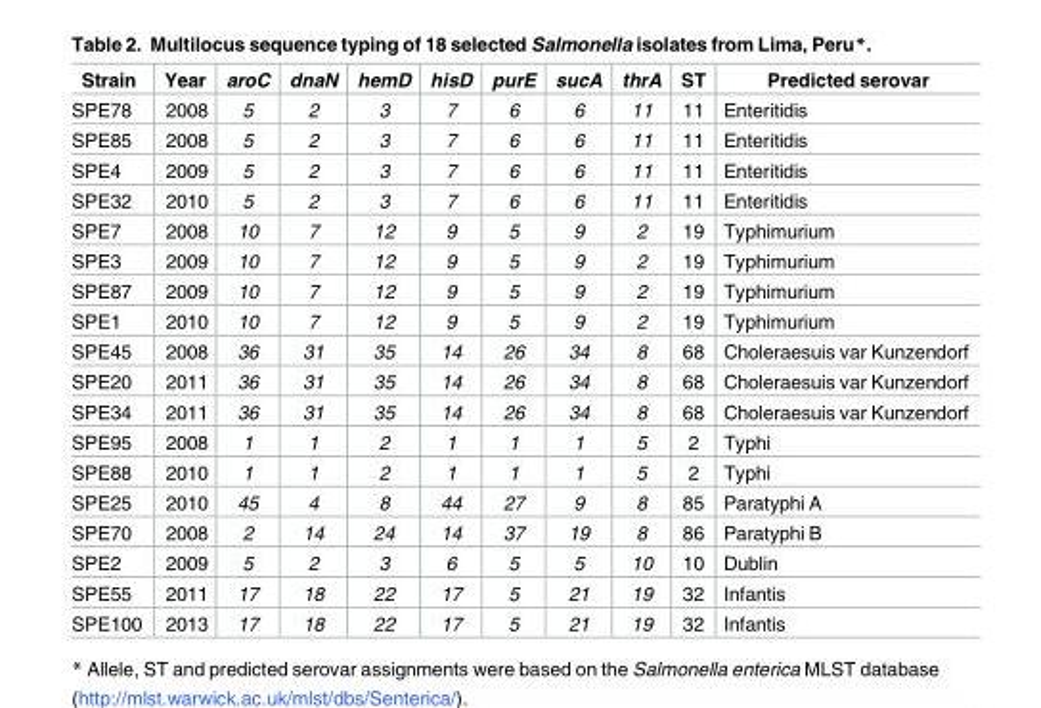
<table><thead><tr><td>Strain</td><td>Year</td><td>aroC</td><td>dnaN</td><td>hemD</td><td>hisD</td><td>purE</td><td>sucA</td><td>thrA</td><td>ST</td><td>Predicted serovar</td></tr></thead><tbody><tr><td>SPE78</td><td>2008</td><td>5</td><td>2</td><td>3</td><td>7</td><td>6</td><td>6</td><td>11</td><td>11</td><td>Enteritidis</td></tr><tr><td>SPE85</td><td>2008</td><td>5</td><td>2</td><td>3</td><td>7</td><td>6</td><td>6</td><td>11</td><td>11</td><td>Enteritidis</td></tr><tr><td>SPE4</td><td>2009</td><td>5</td><td>2</td><td>3</td><td>7</td><td>6</td><td>6</td><td>11</td><td>11</td><td>Enteritidis</td></tr><tr><td>SPE32</td><td>2010</td><td>5</td><td>2</td><td>3</td><td>7</td><td>6</td><td>6</td><td>11</td><td>11</td><td>Enteritidis</td></tr><tr><td>SPE7</td><td>2008</td><td>10</td><td>7</td><td>12</td><td>9</td><td>5</td><td>9</td><td>2</td><td>19</td><td>Typhimurium</td></tr><tr><td>SPE3</td><td>2009</td><td>10</td><td>7</td><td>12</td><td>9</td><td>5</td><td>9</td><td>2</td><td>19</td><td>Typhimurium</td></tr><tr><td>SPE87</td><td>2009</td><td>10</td><td>7</td><td>12</td><td>9</td><td>5</td><td>9</td><td>2</td><td>19</td><td>Typhimurium</td></tr><tr><td>SPE1</td><td>2010</td><td>10</td><td>7</td><td>12</td><td>9</td><td>5</td><td>9</td><td>2</td><td>19</td><td>Typhimurium</td></tr><tr><td>SPE45</td><td>2008</td><td>36</td><td>31</td><td>35</td><td>14</td><td>26</td><td>34</td><td>8</td><td>68</td><td>Choleraesuis var Kunzendorf</td></tr><tr><td>SPE20</td><td>2011</td><td>36</td><td>31</td><td>35</td><td>14</td><td>26</td><td>34</td><td>8</td><td>68</td><td>Choleraesuis var Kunzendorf</td></tr><tr><td>SPE34</td><td>2011</td><td>36</td><td>31</td><td>35</td><td>14</td><td>26</td><td>34</td><td>8</td><td>68</td><td>Choleraesuis var Kunzendorf</td></tr><tr><td>SPE95</td><td>2008</td><td>1</td><td>1</td><td>2</td><td>1</td><td>1</td><td>1</td><td>5</td><td>2</td><td>Typhi</td></tr><tr><td>SPE88</td><td>2010</td><td>1</td><td>1</td><td>2</td><td>1</td><td>1</td><td>1</td><td>5</td><td>2</td><td>Typhi</td></tr><tr><td>SPE25</td><td>2010</td><td>45</td><td>4</td><td>8</td><td>44</td><td>27</td><td>9</td><td>8</td><td>85</td><td>Paratyphi A</td></tr><tr><td>SPE70</td><td>2008</td><td>2</td><td>14</td><td>24</td><td>14</td><td>37</td><td>19</td><td>8</td><td>86</td><td>Paratyphi B</td></tr><tr><td>SPE2</td><td>2009</td><td>5</td><td>2</td><td>3</td><td>6</td><td>5</td><td>5</td><td>10</td><td>10</td><td>Dublin</td></tr><tr><td>SPE55</td><td>2011</td><td>17</td><td>18</td><td>22</td><td>17</td><td>5</td><td>21</td><td>19</td><td>32</td><td>Infantis</td></tr><tr><td>SPE100</td><td>2013</td><td>17</td><td>18</td><td>22</td><td>17</td><td>5</td><td>21</td><td>19</td><td>32</td><td>Infantis</td></tr></tbody></table>